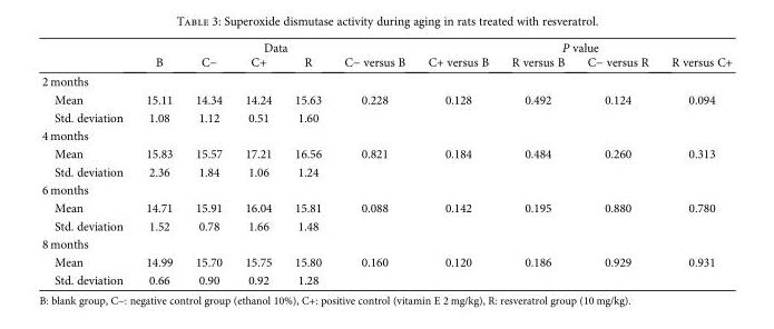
<table><thead><tr><td rowspan="2"></td><td colspan="5">Data</td><td colspan="4">P value</td></tr><tr><td>B</td><td>C−</td><td>C+</td><td>R</td><td>C− versus B</td><td>C+ versus B</td><td>R versus B</td><td>C− versus R</td><td>R versus C+</td></tr></thead><tbody><tr><td colspan="10">2 months</td></tr><tr><td>Mean</td><td>15.11</td><td>14.34</td><td>14.24</td><td>15.63</td><td>0.228</td><td>0.128</td><td>0.492</td><td>0.124</td><td>0.094</td></tr><tr><td>Std. deviation</td><td>1.08</td><td>1.12</td><td>0.51</td><td>1.60</td><td></td><td></td><td></td><td></td><td></td></tr><tr><td colspan="10">4 months</td></tr><tr><td>Mean</td><td>15.83</td><td>15.57</td><td>17.21</td><td>16.56</td><td>0.821</td><td>0.184</td><td>0.484</td><td>0.260</td><td>0.313</td></tr><tr><td>Std. deviation</td><td>2.36</td><td>1.84</td><td>1.06</td><td>1.24</td><td></td><td></td><td></td><td></td><td></td></tr><tr><td colspan="10">6 months</td></tr><tr><td>Mean</td><td>14.71</td><td>15.91</td><td>16.04</td><td>15.81</td><td>0.088</td><td>0.142</td><td>0.195</td><td>0.880</td><td>0.780</td></tr><tr><td>Std. deviation</td><td>1.52</td><td>0.78</td><td>1.66</td><td>1.48</td><td></td><td></td><td></td><td></td><td></td></tr><tr><td colspan="10">8 months</td></tr><tr><td>Mean</td><td>14.99</td><td>15.70</td><td>15.75</td><td>15.80</td><td>0.160</td><td>0.120</td><td>0.186</td><td>0.929</td><td>0.931</td></tr><tr><td>Std. deviation</td><td>0.66</td><td>0.90</td><td>0.92</td><td>1.28</td><td></td><td></td><td></td><td></td><td></td></tr></tbody></table>